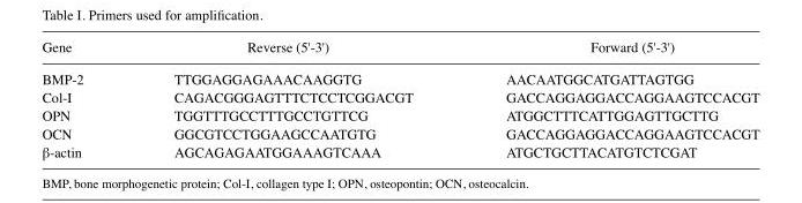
<table><thead><tr><td>Gene</td><td>Reverse (5&#x27;-3&#x27;)</td><td>Forward (5&#x27;-3&#x27;)</td></tr></thead><tbody><tr><td>BMP-2</td><td>TTGGAGGAGAAACAAGGTG</td><td>AACAATGGCATGATTAGTGG</td></tr><tr><td>Col-I</td><td>CAGACGGGAGTTTCTCCTCGGACGT</td><td>GACCAGGAGGACCAGGAAGTCCACGT</td></tr><tr><td>OPN</td><td>TGGTTTGCCTTTGCCTGTTCG</td><td>ATGGCTTTCATTGGAGTTGCTTG</td></tr><tr><td>OCN</td><td>GGCGTCCTGGAAGCCAATGTG</td><td>GACCAGGAGGACCAGGAAGTCCACGT</td></tr><tr><td>β-actin</td><td>AGCAGAGAATGGAAAGTCAAA</td><td>ATGCTGCTTACATGTCTCGAT</td></tr></tbody></table>